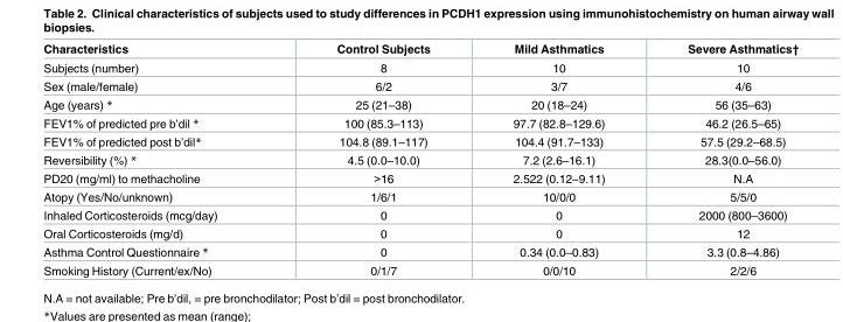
<table><thead><tr><td>Characteristics</td><td>Control Subjects</td><td>Mild Asthmatics</td><td>Severe Asthmatics†</td></tr></thead><tbody><tr><td>Subjects (number)</td><td>8</td><td>10</td><td>10</td></tr><tr><td>Sex (male/female)</td><td>6/2</td><td>3/7</td><td>4/6</td></tr><tr><td>Age (years) *</td><td>25 (21–38)</td><td>20 (18–24)</td><td>56 (35–63)</td></tr><tr><td>FEV1% of predicted pre b’dil *</td><td>100 (85.3–113)</td><td>97.7 (82.8–129.6)</td><td>46.2 (26.5–65)</td></tr><tr><td>FEV1% of predicted post b’dil*</td><td>104.8 (89.1–117)</td><td>104.4 (91.7–133)</td><td>57.5 (29.2–68.5)</td></tr><tr><td>Reversibility (%) *</td><td>4.5 (0.0–10.0)</td><td>7.2 (2.6–16.1)</td><td>28.3(0.0–56.0)</td></tr><tr><td>PD20 (mg/ml) to methacholine</td><td>&gt;16</td><td>2.522 (0.12–9.11)</td><td>N.A</td></tr><tr><td>Atopy (Yes/No/unknown)</td><td>1/6/1</td><td>10/0/0</td><td>5/5/0</td></tr><tr><td>Inhaled Corticosteroids (mcg/day)</td><td>0</td><td>0</td><td>2000 (800–3600)</td></tr><tr><td>Oral Corticosteroids (mg/d)</td><td>0</td><td>0</td><td>12</td></tr><tr><td>Asthma Control Questionnaire *</td><td>0</td><td>0.34 (0.0–0.83)</td><td>3.3 (0.8–4.86)</td></tr><tr><td>Smoking History (Current/ex/No)</td><td>0/1/7</td><td>0/0/10</td><td>2/2/6</td></tr></tbody></table>